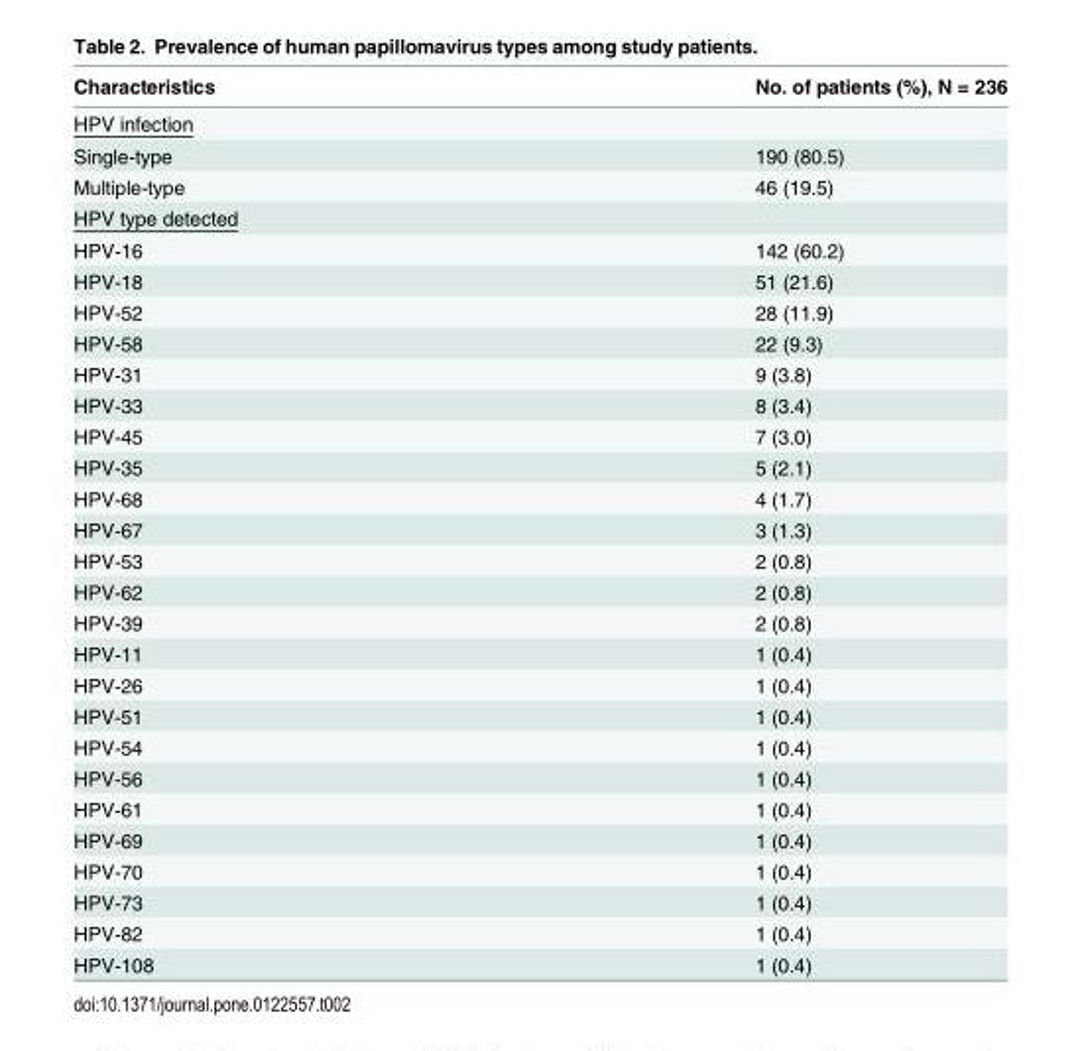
<table><thead><tr><td>Characteristics</td><td>No. of patients (%), N = 236</td></tr></thead><tbody><tr><td colspan="2">HPV infection</td></tr><tr><td>Single-type</td><td>190 (80.5)</td></tr><tr><td>Multiple-type</td><td>46 (19.5)</td></tr><tr><td colspan="2">HPV type detected</td></tr><tr><td>HPV-16</td><td>142 (60.2)</td></tr><tr><td>HPV-18</td><td>51 (21.6)</td></tr><tr><td>HPV-52</td><td>28 (11.9)</td></tr><tr><td>HPV-58</td><td>22 (9.3)</td></tr><tr><td>HPV-31</td><td>9 (3.8)</td></tr><tr><td>HPV-33</td><td>8 (3.4)</td></tr><tr><td>HPV-45</td><td>7 (3.0)</td></tr><tr><td>HPV-35</td><td>5 (2.1)</td></tr><tr><td>HPV-68</td><td>4 (1.7)</td></tr><tr><td>HPV-67</td><td>3 (1.3)</td></tr><tr><td>HPV-53</td><td>2 (0.8)</td></tr><tr><td>HPV-62</td><td>2 (0.8)</td></tr><tr><td>HPV-39</td><td>2 (0.8)</td></tr><tr><td>HPV-11</td><td>1 (0.4)</td></tr><tr><td>HPV-26</td><td>1 (0.4)</td></tr><tr><td>HPV-51</td><td>1 (0.4)</td></tr><tr><td>HPV-54</td><td>1 (0.4)</td></tr><tr><td>HPV-56</td><td>1 (0.4)</td></tr><tr><td>HPV-61</td><td>1 (0.4)</td></tr><tr><td>HPV-69</td><td>1 (0.4)</td></tr><tr><td>HPV-70</td><td>1 (0.4)</td></tr><tr><td>HPV-73</td><td>1 (0.4)</td></tr><tr><td>HPV-82</td><td>1 (0.4)</td></tr><tr><td>HPV-108</td><td>1 (0.4)</td></tr></tbody></table>